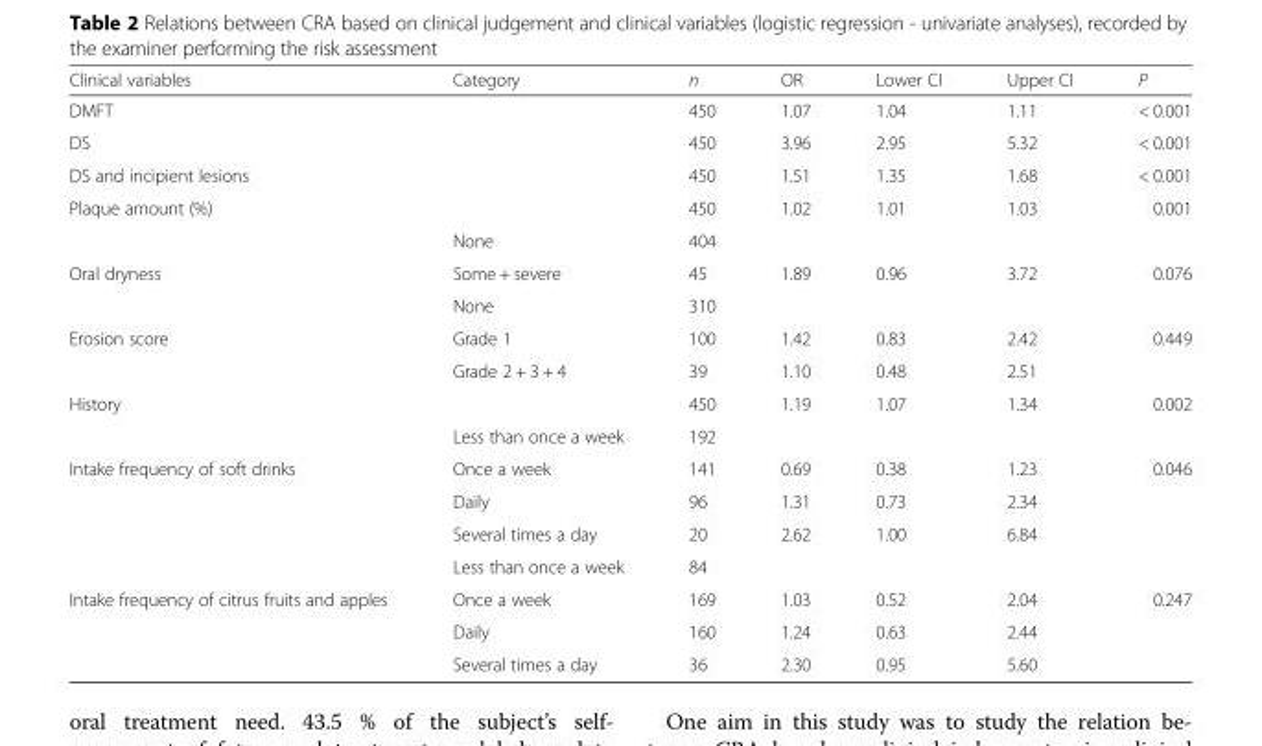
<table><thead><tr><td>Clinical variables</td><td>Category</td><td>n</td><td>OR</td><td>Lower CI</td><td>Upper CI</td><td>P</td></tr></thead><tbody><tr><td>DMFT</td><td></td><td>450</td><td>1.07</td><td>1.04</td><td>1.11</td><td>&lt; 0.001</td></tr><tr><td>DS</td><td></td><td>450</td><td>3.96</td><td>2.95</td><td>5.32</td><td>&lt; 0.001</td></tr><tr><td>DS and incipient lesions</td><td></td><td>450</td><td>1.51</td><td>1.35</td><td>1.68</td><td>&lt; 0.001</td></tr><tr><td rowspan="2">Plaque amount (%)</td><td></td><td>450</td><td>1.02</td><td>1.01</td><td>1.03</td><td>0.001</td></tr><tr><td>None</td><td>404</td><td></td><td></td><td></td><td></td></tr><tr><td rowspan="2">Oral dryness</td><td>Some + severe</td><td>45</td><td>1.89</td><td>0.96</td><td>3.72</td><td>0.076</td></tr><tr><td>None</td><td>310</td><td></td><td></td><td></td><td></td></tr><tr><td rowspan="2">Erosion score</td><td>Grade 1</td><td>100</td><td>1.42</td><td>0.83</td><td>2.42</td><td rowspan="2">0.449</td></tr><tr><td>Grade 2 + 3 + 4</td><td>39</td><td>1.10</td><td>0.48</td><td>2.51</td></tr><tr><td rowspan="2">History</td><td></td><td>450</td><td>1.19</td><td>1.07</td><td>1.34</td><td>0.002</td></tr><tr><td>Less than once a week</td><td>192</td><td></td><td></td><td></td><td></td></tr><tr><td rowspan="4">Intake frequency of soft drinks</td><td>Once a week</td><td>141</td><td>0.69</td><td>0.38</td><td>1.23</td><td rowspan="3">0.046</td></tr><tr><td>Daily</td><td>96</td><td>1.31</td><td>0.73</td><td>2.34</td></tr><tr><td>Several times a day</td><td>20</td><td>2.62</td><td>1.00</td><td>6.84</td></tr><tr><td>Less than once a week</td><td>84</td><td></td><td></td><td></td><td></td></tr><tr><td rowspan="3">Intake frequency of citrus fruits and apples</td><td>Once a week</td><td>169</td><td>1.03</td><td>0.52</td><td>2.04</td><td>0.247</td></tr><tr><td>Daily</td><td>160</td><td>1.24</td><td>0.63</td><td>2.44</td><td></td></tr><tr><td>Several times a day</td><td>36</td><td>2.30</td><td>0.95</td><td>5.60</td><td></td></tr></tbody></table>